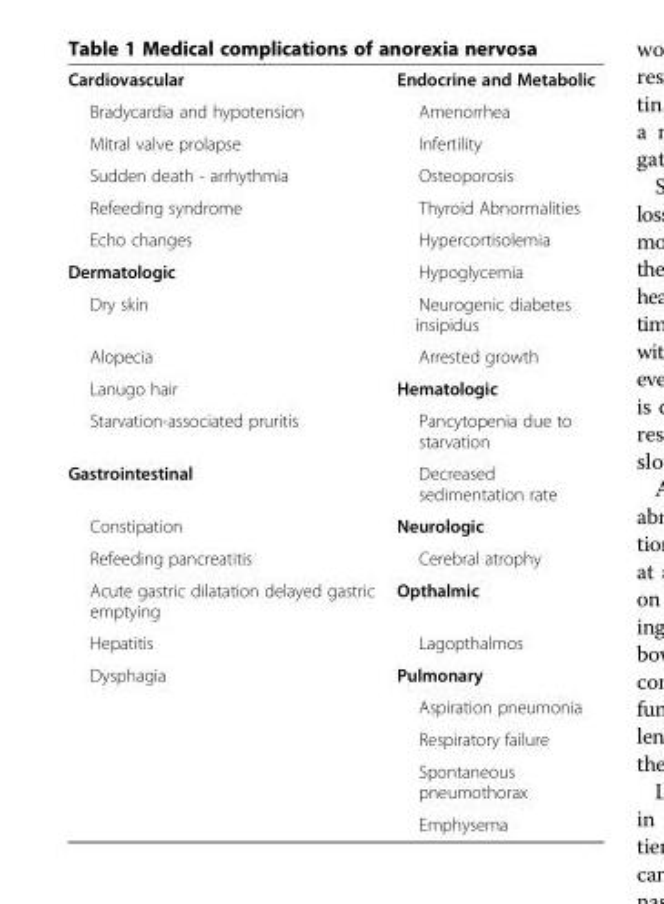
<table><tbody><tr><td>Cardiovascular</td><td>Endocrine and Metabolic</td></tr><tr><td>Bradycardia and hypotension</td><td>Amenorrhea</td></tr><tr><td>Mitral valve prolapse</td><td>Infertility</td></tr><tr><td>Sudden death - arrhythmia</td><td>Osteoporosis</td></tr><tr><td>Refeeding syndrome</td><td>Thyroid Abnormalities</td></tr><tr><td>Echo changes</td><td>Hypercortisolemia</td></tr><tr><td>Dermatologic</td><td>Hypoglycemia</td></tr><tr><td>Dry skin</td><td>Neurogenic diabetes insipidus</td></tr><tr><td>Alopecia</td><td>Arrested growth</td></tr><tr><td>Lanugo hair</td><td>Hematologic</td></tr><tr><td>Starvation-associated pruritis</td><td>Pancytopenia due to starvation</td></tr><tr><td>Gastrointestinal</td><td>Decreased sedimentation rate</td></tr><tr><td>Constipation</td><td>Neurologic</td></tr><tr><td>Refeeding pancreatitis</td><td>Cerebral atrophy</td></tr><tr><td>Acute gastric dilatation delayed gastric emptying</td><td>Opthalmic</td></tr><tr><td>Hepatitis</td><td>Lagopthalmos</td></tr><tr><td rowspan="5">Dysphagia</td><td>Pulmonary</td></tr><tr><td>Aspiration pneumonia</td></tr><tr><td>Respiratory failure</td></tr><tr><td>Spontaneous pneumothorax</td></tr><tr><td>Emphysema</td></tr></tbody></table>